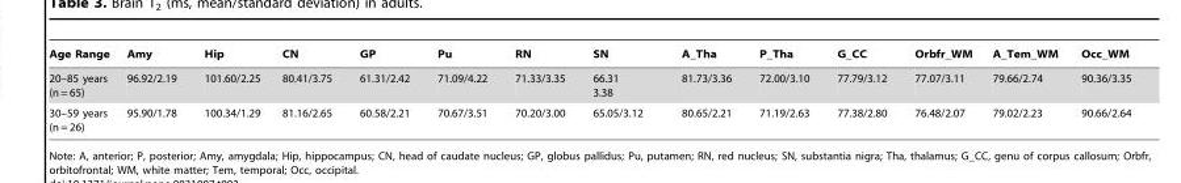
<table><thead><tr><td>Age Range</td><td>Amy</td><td>Hip</td><td>CN</td><td>GP</td><td>Pu</td><td>RN</td><td>SN</td><td>A_Tha</td><td>P_Tha</td><td>G_CC</td><td>Orbfr_WM</td><td>A_Tem_WM</td><td>Occ_WM</td></tr></thead><tbody><tr><td>20–85 years (n = 65)</td><td>96.92/2.19</td><td>101.60/2.25</td><td>80.41/3.75</td><td>61.31/2.42</td><td>71.09/4.22</td><td>71.33/3.35</td><td>66.31 3.38</td><td>81.73/3.36</td><td>72.00/3.10</td><td>77.79/3.12</td><td>77.07/3.11</td><td>79.66/2.74</td><td>90.36/3.35</td></tr><tr><td>30–59 years (n = 26)</td><td>95.90/1.78</td><td>100.34/1.29</td><td>81.16/2.65</td><td>60.58/2.21</td><td>70.67/3.51</td><td>70.20/3.00</td><td>65.05/3.12</td><td>80.65/2.21</td><td>71.19/2.63</td><td>77.38/2.80</td><td>76.48/2.07</td><td>79.02/2.23</td><td>90.66/2.64</td></tr></tbody></table>